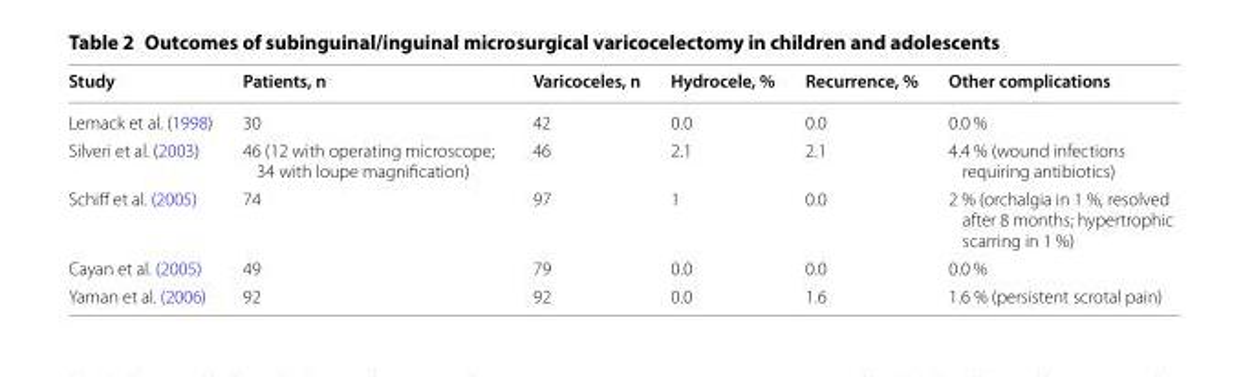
<table><thead><tr><td>Study</td><td>Patients, n</td><td>Varicoceles, n</td><td>Hydrocele, %</td><td>Recurrence, %</td><td>Other complications</td></tr></thead><tbody><tr><td>Lemack et al. (1998)</td><td>30</td><td>42</td><td>0.0</td><td>0.0</td><td>0.0 %</td></tr><tr><td>Silveri et al. (2003)</td><td>46 (12 with operating microscope; 34 with loupe magnification)</td><td>46</td><td>2.1</td><td>2.1</td><td>4.4 % (wound infections requiring antibiotics)</td></tr><tr><td>Schiff et al. (2005)</td><td>74</td><td>97</td><td>1</td><td>0.0</td><td>2 % (orchalgia in 1 %, resolved after 8 months; hypertrophic scarring in 1 %)</td></tr><tr><td>Cayan et al. (2005)</td><td>49</td><td>79</td><td>0.0</td><td>0.0</td><td>0.0 %</td></tr><tr><td>Yaman et al. (2006)</td><td>92</td><td>92</td><td>0.0</td><td>1.6</td><td>1.6 % (persistent scrotal pain)</td></tr></tbody></table>